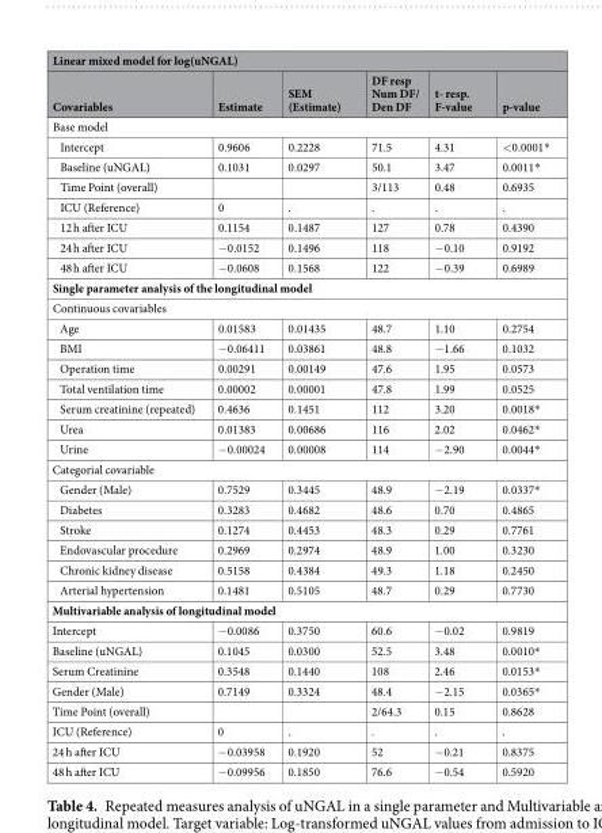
<table><thead><tr><td colspan="6">Linear mixed model for log(uNGAL)</td></tr><tr><td>Covariables</td><td>Estimate</td><td>SEM (Estimate)</td><td>DF resp Num DF/ Den DF</td><td>t- resp. F-value</td><td>p-value</td></tr></thead><tbody><tr><td colspan="6">Base model</td></tr><tr><td>Intercept</td><td>0.9606</td><td>0.2228</td><td>71.5</td><td>4.31</td><td>&lt;0.0001*</td></tr><tr><td>Baseline (uNGAL)</td><td>0.1031</td><td>0.0297</td><td>50.1</td><td>3.47</td><td>0.0011*</td></tr><tr><td>Time Point (overall)</td><td></td><td></td><td>3/113</td><td>0.48</td><td>0.6935</td></tr><tr><td>ICU (Reference)</td><td>0</td><td>.</td><td>.</td><td>.</td><td>.</td></tr><tr><td>12 h after ICU</td><td>0.1154</td><td>0.1487</td><td>127</td><td>0.78</td><td>0.4390</td></tr><tr><td>24 h after ICU</td><td>−0.0152</td><td>0.1496</td><td>118</td><td>−0.10</td><td>0.9192</td></tr><tr><td>48 h after ICU</td><td>−0.0608</td><td>0.1568</td><td>122</td><td>−0.39</td><td>0.6989</td></tr><tr><td colspan="6">Single parameter analysis of the longitudinal model</td></tr><tr><td colspan="6">Continuous covariables</td></tr><tr><td>Age</td><td>0.01583</td><td>0.01435</td><td>48.7</td><td>1.10</td><td>0.2754</td></tr><tr><td>BMI</td><td>−0.06411</td><td>0.03861</td><td>48.8</td><td>−1.66</td><td>0.1032</td></tr><tr><td>Operation time</td><td>0.00291</td><td>0.00149</td><td>47.6</td><td>1.95</td><td>0.0573</td></tr><tr><td>Total ventilation time</td><td>0.00002</td><td>0.00001</td><td>47.8</td><td>1.99</td><td>0.0525</td></tr><tr><td>Serum creatinine (repeated)</td><td>0.4636</td><td>0.1451</td><td>112</td><td>3.20</td><td>0.0018*</td></tr><tr><td>Urea</td><td>0.01383</td><td>0.00686</td><td>116</td><td>2.02</td><td>0.0462*</td></tr><tr><td>Urine</td><td>−0.00024</td><td>0.00008</td><td>114</td><td>−2.90</td><td>0.0044*</td></tr><tr><td colspan="6">Categorial covariable</td></tr><tr><td>Gender (Male)</td><td>0.7529</td><td>0.3445</td><td>48.9</td><td>−2.19</td><td>0.0337*</td></tr><tr><td>Diabetes</td><td>0.3283</td><td>0.4682</td><td>48.6</td><td>0.70</td><td>0.4865</td></tr><tr><td>Stroke</td><td>0.1274</td><td>0.4453</td><td>48.3</td><td>0.29</td><td>0.7761</td></tr><tr><td>Endovascular procedure</td><td>0.2969</td><td>0.2974</td><td>48.9</td><td>1.00</td><td>0.3230</td></tr><tr><td>Chronic kidney disease</td><td>0.5158</td><td>0.4384</td><td>49.3</td><td>1.18</td><td>0.2450</td></tr><tr><td>Arterial hypertension</td><td>0.1481</td><td>0.5105</td><td>48.7</td><td>0.29</td><td>0.7730</td></tr><tr><td colspan="6">Multivariable analysis of longitudinal model</td></tr><tr><td>Intercept</td><td>−0.0086</td><td>0.3750</td><td>60.6</td><td>−0.02</td><td>0.9819</td></tr><tr><td>Baseline (uNGAL)</td><td>0.1045</td><td>0.0300</td><td>52.5</td><td>3.48</td><td>0.0010*</td></tr><tr><td>Serum Creatinine</td><td>0.3548</td><td>0.1440</td><td>108</td><td>2.46</td><td>0.0153*</td></tr><tr><td>Gender (Male)</td><td>0.7149</td><td>0.3324</td><td>48.4</td><td>−2.15</td><td>0.0365*</td></tr><tr><td>Time Point (overall)</td><td></td><td></td><td>2/64.3</td><td>0.15</td><td>0.8628</td></tr><tr><td>ICU (Reference)</td><td>0</td><td>.</td><td>.</td><td>.</td><td>.</td></tr><tr><td>24 h after ICU</td><td>−0.03958</td><td>0.1920</td><td>52</td><td>−0.21</td><td>0.8375</td></tr><tr><td>48 h after ICU</td><td>−0.09956</td><td>0.1850</td><td>76.6</td><td>−0.54</td><td>0.5920</td></tr></tbody></table>